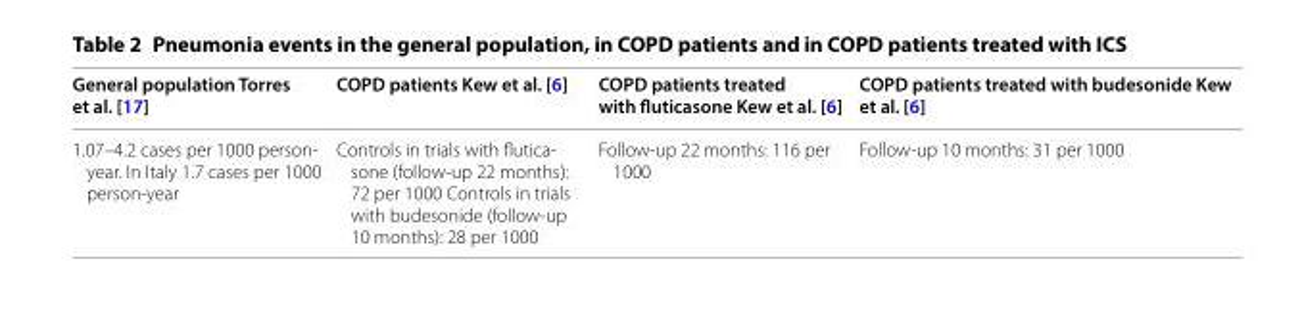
<table><thead><tr><td>General population Torres et al. [17]</td><td>COPD patients Kew et al. [6]</td><td>COPD patients treated with fluticasone Kew et al. [6]</td><td>COPD patients treated with budesonide Kew et al. [6]</td></tr></thead><tbody><tr><td>1.07–4.2 cases per 1000 person‑ year. In Italy 1.7 cases per 1000 person‑year</td><td>Controls in trials with flutica‑ sone (follow‑up 22 months): 72 per 1000 Controls in trials with budesonide (follow‑up 10 months): 28 per 1000</td><td>Follow‑up 22 months: 116 per 1000</td><td>Follow‑up 10 months: 31 per 1000</td></tr></tbody></table>